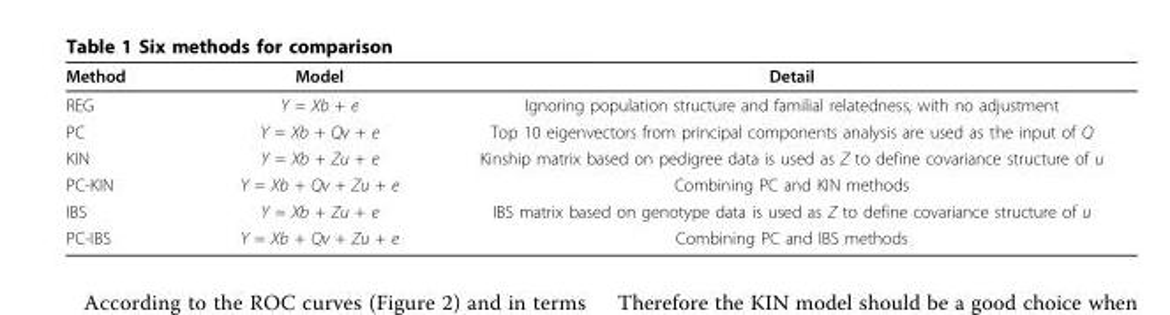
<table><thead><tr><td>Method</td><td>Model</td><td>Detail</td></tr></thead><tbody><tr><td>REG</td><td>Y = Xb + e</td><td>Ignoring population structure and familial relatedness, with no adjustment</td></tr><tr><td>PC</td><td>Y = Xb + Qv + e</td><td>Top 10 eigenvectors from principal components analysis are used as the input of Q</td></tr><tr><td>KIN</td><td>Y = Xb + Zu + e</td><td>Kinship matrix based on pedigree data is used as Z to define covariance structure of u</td></tr><tr><td>PC-KIN</td><td>Y = Xb + Qv + Zu + e</td><td>Combining PC and KIN methods</td></tr><tr><td>IBS</td><td>Y = Xb + Zu + e</td><td>IBS matrix based on genotype data is used as Z to define covariance structure of u</td></tr><tr><td>PC-IBS</td><td>Y = Xb + Qv + Zu + e</td><td>Combining PC and IBS methods</td></tr></tbody></table>